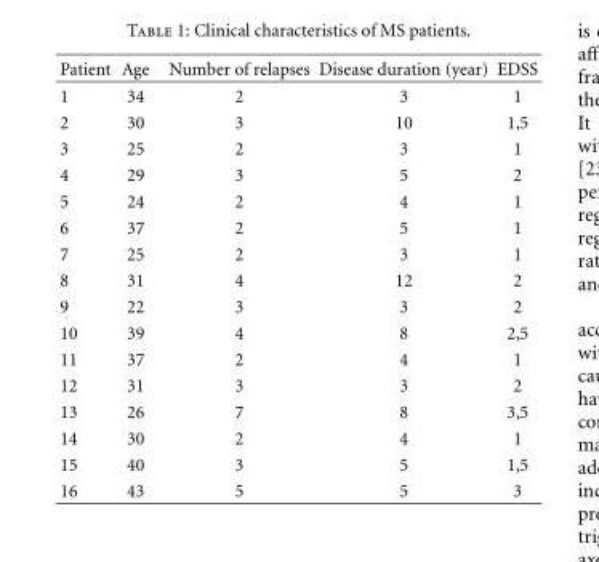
<table><thead><tr><td>Patient</td><td>Age</td><td>Number of relapses</td><td>Disease duration (year)</td><td>EDSS</td></tr></thead><tbody><tr><td>1</td><td>34</td><td>2</td><td>3</td><td>1</td></tr><tr><td>2</td><td>30</td><td>3</td><td>10</td><td>1,5</td></tr><tr><td>3</td><td>25</td><td>2</td><td>3</td><td>1</td></tr><tr><td>4</td><td>29</td><td>3</td><td>5</td><td>2</td></tr><tr><td>5</td><td>24</td><td>2</td><td>4</td><td>1</td></tr><tr><td>6</td><td>37</td><td>2</td><td>5</td><td>1</td></tr><tr><td>7</td><td>25</td><td>2</td><td>3</td><td>1</td></tr><tr><td>8</td><td>31</td><td>4</td><td>12</td><td>2</td></tr><tr><td>9</td><td>22</td><td>3</td><td>3</td><td>2</td></tr><tr><td>10</td><td>39</td><td>4</td><td>8</td><td>2,5</td></tr><tr><td>11</td><td>37</td><td>2</td><td>4</td><td>1</td></tr><tr><td>12</td><td>31</td><td>3</td><td>3</td><td>2</td></tr><tr><td>13</td><td>26</td><td>7</td><td>8</td><td>3,5</td></tr><tr><td>14</td><td>30</td><td>2</td><td>4</td><td>1</td></tr><tr><td>15</td><td>40</td><td>3</td><td>5</td><td>1,5</td></tr><tr><td>16</td><td>43</td><td>5</td><td>5</td><td>3</td></tr></tbody></table>